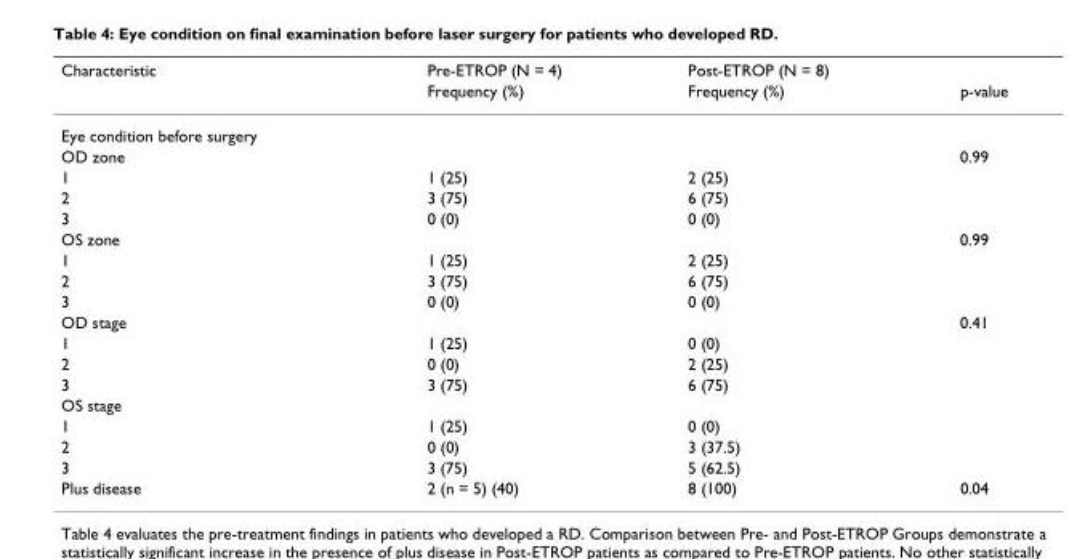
<table><thead><tr><td rowspan="2">Characteristic</td><td rowspan="2">Pre-ETROP (N = 4) Frequency (%)</td><td rowspan="2">Post-ETROP (N = 8) Frequency (%)</td><td rowspan="2">p-value</td></tr><tr></tr></thead><tbody><tr><td colspan="4">Eye condition before surgery</td></tr><tr><td>OD zone</td><td></td><td></td><td>0.99</td></tr><tr><td>1</td><td>1 (25)</td><td>2 (25)</td><td></td></tr><tr><td>2</td><td>3 (75)</td><td>6 (75)</td><td></td></tr><tr><td>3</td><td>0 (0)</td><td>0 (0)</td><td></td></tr><tr><td>OS zone</td><td></td><td></td><td>0.99</td></tr><tr><td>1</td><td>1 (25)</td><td>2 (25)</td><td></td></tr><tr><td>2</td><td>3 (75)</td><td>6 (75)</td><td></td></tr><tr><td>3</td><td>0 (0)</td><td>0 (0)</td><td></td></tr><tr><td>OD stage</td><td></td><td></td><td>0.41</td></tr><tr><td>1</td><td>1 (25)</td><td>0 (0)</td><td></td></tr><tr><td>2</td><td>0 (0)</td><td>2 (25)</td><td></td></tr><tr><td>3</td><td>3 (75)</td><td>6 (75)</td><td></td></tr><tr><td colspan="4">OS stage</td></tr><tr><td>1</td><td>1 (25)</td><td>0 (0)</td><td></td></tr><tr><td>2</td><td>0 (0)</td><td>3 (37.5)</td><td></td></tr><tr><td>3</td><td>3 (75)</td><td>5 (62.5)</td><td></td></tr><tr><td>Plus disease</td><td>2 (n = 5) (40)</td><td>8 (100)</td><td>0.04</td></tr></tbody></table>